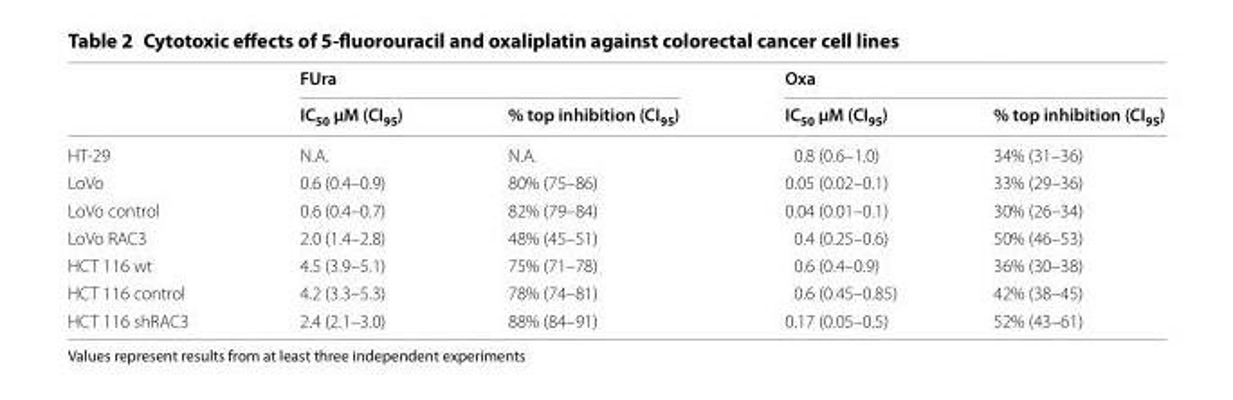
<table><thead><tr><td rowspan="2"></td><td colspan="2">FUra</td><td colspan="2">Oxa</td></tr><tr><td>IC<sub>50</sub> μM (CI<sub>95</sub>)</td><td>% top inhibition (CI<sub>95</sub>)</td><td>IC<sub>50</sub> μM (CI<sub>95</sub>)</td><td>% top inhibition (CI<sub>95</sub>)</td></tr></thead><tbody><tr><td>HT-29</td><td>N.A.</td><td>N.A.</td><td>0.8 (0.6–1.0)</td><td>34% (31–36)</td></tr><tr><td>LoVo</td><td>0.6 (0.4–0.9)</td><td>80% (75–86)</td><td>0.05 (0.02–0.1)</td><td>33% (29–36)</td></tr><tr><td>LoVo control</td><td>0.6 (0.4–0.7)</td><td>82% (79–84)</td><td>0.04 (0.01–0.1)</td><td>30% (26–34)</td></tr><tr><td>LoVo RAC3</td><td>2.0 (1.4–2.8)</td><td>48% (45–51)</td><td>0.4 (0.25–0.6)</td><td>50% (46–53)</td></tr><tr><td>HCT 116 wt</td><td>4.5 (3.9–5.1)</td><td>75% (71–78)</td><td>0.6 (0.4–0.9)</td><td>36% (30–38)</td></tr><tr><td>HCT 116 control</td><td>4.2 (3.3–5.3)</td><td>78% (74–81)</td><td>0.6 (0.45–0.85)</td><td>42% (38–45)</td></tr><tr><td>HCT 116 shRAC3</td><td>2.4 (2.1–3.0)</td><td>88% (84–91)</td><td>0.17 (0.05–0.5)</td><td>52% (43–61)</td></tr></tbody></table>